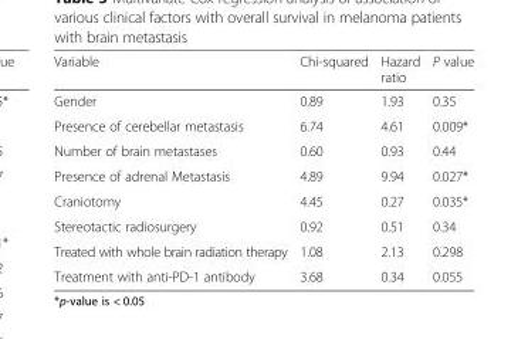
<table><thead><tr><td>Variable</td><td>Chi-squared</td><td>Hazard ratio</td><td>P value</td></tr></thead><tbody><tr><td>Gender</td><td>0.89</td><td>1.93</td><td>0.35</td></tr><tr><td>Presence of cerebellar metastasis</td><td>6.74</td><td>4.61</td><td>0.009*</td></tr><tr><td>Number of brain metastases</td><td>0.60</td><td>0.93</td><td>0.44</td></tr><tr><td>Presence of adrenal Metastasis</td><td>4.89</td><td>9.94</td><td>0.027*</td></tr><tr><td>Craniotomy</td><td>4.45</td><td>0.27</td><td>0.035*</td></tr><tr><td>Stereotactic radiosurgery</td><td>0.92</td><td>0.51</td><td>0.34</td></tr><tr><td>Treated with whole brain radiation therapy</td><td>1.08</td><td>2.13</td><td>0.298</td></tr><tr><td>Treatment with anti-PD-1 antibody</td><td>3.68</td><td>0.34</td><td>0.055</td></tr></tbody></table>